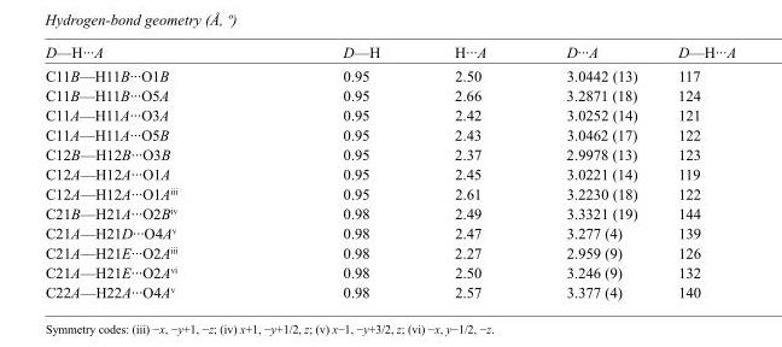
<table><tbody><tr><td>D—H···A</td><td>D—H</td><td>H···A</td><td>D···A</td><td>D—H···A</td></tr><tr><td>C11B—H11B···O1B</td><td>0.95</td><td>2.50</td><td>3.0442 (13)</td><td>117</td></tr><tr><td>C11B—H11B···O5A</td><td>0.95</td><td>2.66</td><td>3.2871 (18)</td><td>124</td></tr><tr><td>C11A—H11A···O3A</td><td>0.95</td><td>2.42</td><td>3.0252 (14)</td><td>121</td></tr><tr><td>C11A—H11A···O5B</td><td>0.95</td><td>2.43</td><td>3.0462 (17)</td><td>122</td></tr><tr><td>C12B—H12B···O3B</td><td>0.95</td><td>2.37</td><td>2.9978 (13)</td><td>123</td></tr><tr><td>C12A—H12A···O1A</td><td>0.95</td><td>2.45</td><td>3.0221 (14)</td><td>119</td></tr><tr><td>C12A—H12A···O1A<sup>iii</sup></td><td>0.95</td><td>2.61</td><td>3.2230 (18)</td><td>122</td></tr><tr><td>C21B—H21A···O2B<sup>iv</sup></td><td>0.98</td><td>2.49</td><td>3.3321 (19)</td><td>144</td></tr><tr><td>C21A—H21D···O4A<sup>v</sup></td><td>0.98</td><td>2.47</td><td>3.277 (4)</td><td>139</td></tr><tr><td>C21A—H21E···O2A<sup>iii</sup></td><td>0.98</td><td>2.27</td><td>2.959 (9)</td><td>126</td></tr><tr><td>C21A—H21E···O2A<sup>vi</sup></td><td>0.98</td><td>2.50</td><td>3.246 (9)</td><td>132</td></tr><tr><td>C22A—H22A···O4A<sup>v</sup></td><td>0.98</td><td>2.57</td><td>3.377 (4)</td><td>140</td></tr></tbody></table>